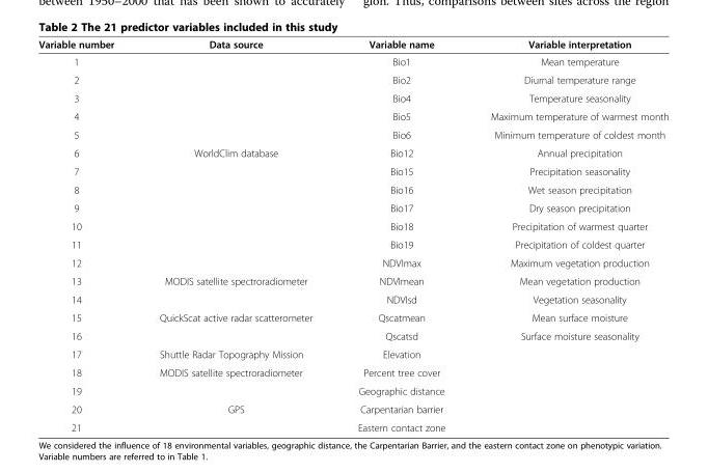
<table><thead><tr><td>Variable number</td><td>Data source</td><td>Variable name</td><td>Variable interpretation</td></tr></thead><tbody><tr><td>1</td><td></td><td>Bio1</td><td>Mean temperature</td></tr><tr><td>2</td><td></td><td>Bio2</td><td>Diurnal temperature range</td></tr><tr><td>3</td><td></td><td>Bio4</td><td>Temperature seasonality</td></tr><tr><td>4</td><td></td><td>Bio5</td><td>Maximum temperature of warmest month</td></tr><tr><td>5</td><td></td><td>Bio6</td><td>Minimum temperature of coldest month</td></tr><tr><td>6</td><td>WorldClim database</td><td>Bio12</td><td>Annual precipitation</td></tr><tr><td>7</td><td></td><td>Bio15</td><td>Precipitation seasonality</td></tr><tr><td>8</td><td></td><td>Bio16</td><td>Wet season precipitation</td></tr><tr><td>9</td><td></td><td>Bio17</td><td>Dry season precipitation</td></tr><tr><td>10</td><td></td><td>Bio18</td><td>Precipitation of warmest quarter</td></tr><tr><td>11</td><td></td><td>Bio19</td><td>Precipitation of coldest quarter</td></tr><tr><td>12</td><td></td><td>NDVImax</td><td>Maximum vegetation production</td></tr><tr><td>13</td><td>MODIS satellite spectroradiometer</td><td>NDVImean</td><td>Mean vegetation production</td></tr><tr><td>14</td><td></td><td>NDVIsd</td><td>Vegetation seasonality</td></tr><tr><td>15</td><td>QuickScat active radar scatterometer</td><td>Qscatmean</td><td>Mean surface moisture</td></tr><tr><td>16</td><td></td><td>Qscatsd</td><td>Surface moisture seasonality</td></tr><tr><td>17</td><td>Shuttle Radar Topography Mission</td><td>Elevation</td><td></td></tr><tr><td>18</td><td>MODIS satellite spectroradiometer</td><td>Percent tree cover</td><td></td></tr><tr><td>19</td><td></td><td>Geographic distance</td><td></td></tr><tr><td>20</td><td>GPS</td><td>Carpentarian barrier</td><td></td></tr><tr><td>21</td><td></td><td>Eastern contact zone</td><td></td></tr></tbody></table>